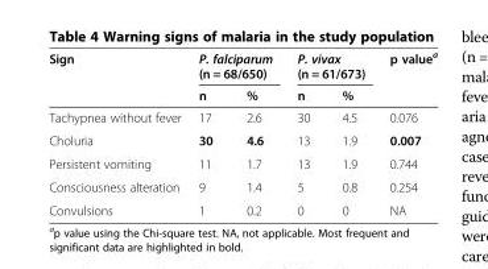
<table><thead><tr><td rowspan="2">Sign</td><td colspan="2">P. falciparum (n = 68/650)</td><td colspan="2">P. vivax (n = 61/673)</td><td rowspan="2">p value<sup>a</sup></td></tr><tr><td>n</td><td>%</td><td>n</td><td>%</td></tr></thead><tbody><tr><td>Tachypnea without fever</td><td>17</td><td>2.6</td><td>30</td><td>4.5</td><td>0.076</td></tr><tr><td>Choluria</td><td>30</td><td>4.6</td><td>13</td><td>1.9</td><td>0.007</td></tr><tr><td>Persistent vomiting</td><td>11</td><td>1.7</td><td>13</td><td>1.9</td><td>0.744</td></tr><tr><td>Consciousness alteration</td><td>9</td><td>1.4</td><td>5</td><td>0.8</td><td>0.254</td></tr><tr><td>Convulsions</td><td>1</td><td>0.2</td><td>0</td><td>0</td><td>NA</td></tr></tbody></table>